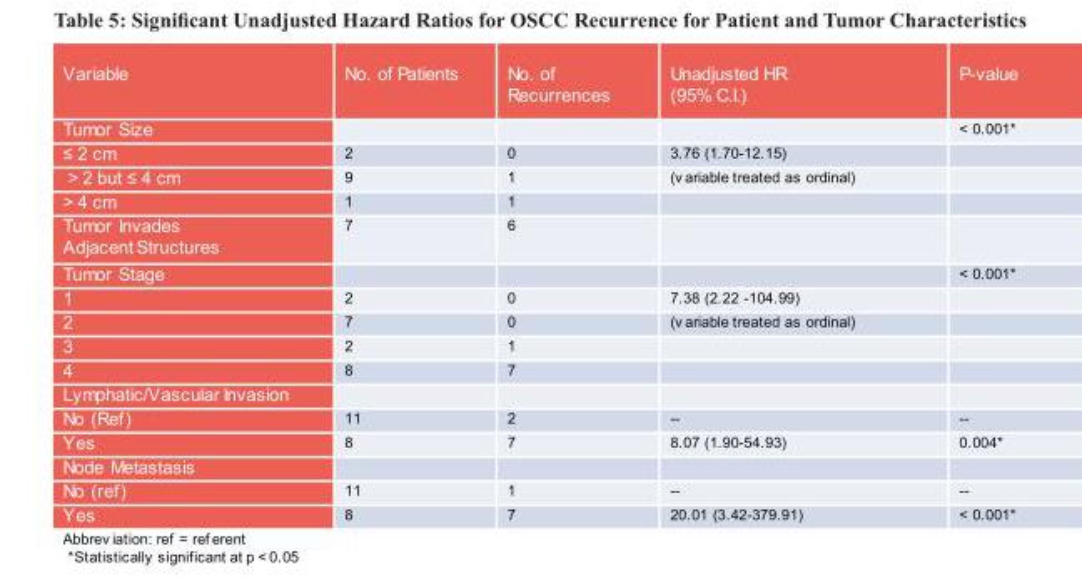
<table><thead><tr><td>Variable</td><td>No. of Patients</td><td>No. of Recurrences</td><td>Unadjusted HR (95% C.I.)</td><td>P-value</td></tr></thead><tbody><tr><td>Tumor Size</td><td></td><td></td><td></td><td>&lt; 0.001*</td></tr><tr><td>≤ 2 cm</td><td>2</td><td>0</td><td>3.76 (1.70-12.15)</td><td></td></tr><tr><td>&gt; 2 but ≤ 4 cm</td><td>9</td><td>1</td><td>(v ariable treated as ordinal)</td><td></td></tr><tr><td>&gt; 4 cm</td><td>1</td><td>1</td><td></td><td></td></tr><tr><td>Tumor Invades Adjacent Structures</td><td>7</td><td>6</td><td></td><td></td></tr><tr><td>Tumor Stage</td><td></td><td></td><td></td><td>&lt; 0.001*</td></tr><tr><td>1</td><td>2</td><td>0</td><td>7.38 (2.22 -104.99)</td><td></td></tr><tr><td>2</td><td>7</td><td>0</td><td>(v ariable treated as ordinal)</td><td></td></tr><tr><td>3</td><td>2</td><td>1</td><td></td><td></td></tr><tr><td>4</td><td>8</td><td>7</td><td></td><td></td></tr><tr><td colspan="5">Lymphatic/Vascular Invasion</td></tr><tr><td>No (Ref)</td><td>11</td><td>2</td><td>--</td><td>--</td></tr><tr><td>Yes</td><td>8</td><td>7</td><td>8.07 (1.90-54.93)</td><td>0.004*</td></tr><tr><td colspan="5">Node Metastasis</td></tr><tr><td>No (ref)</td><td>11</td><td>1</td><td>--</td><td>--</td></tr><tr><td>Yes</td><td>8</td><td>7</td><td>20.01 (3.42-379.91)</td><td>&lt; 0.001*</td></tr></tbody></table>